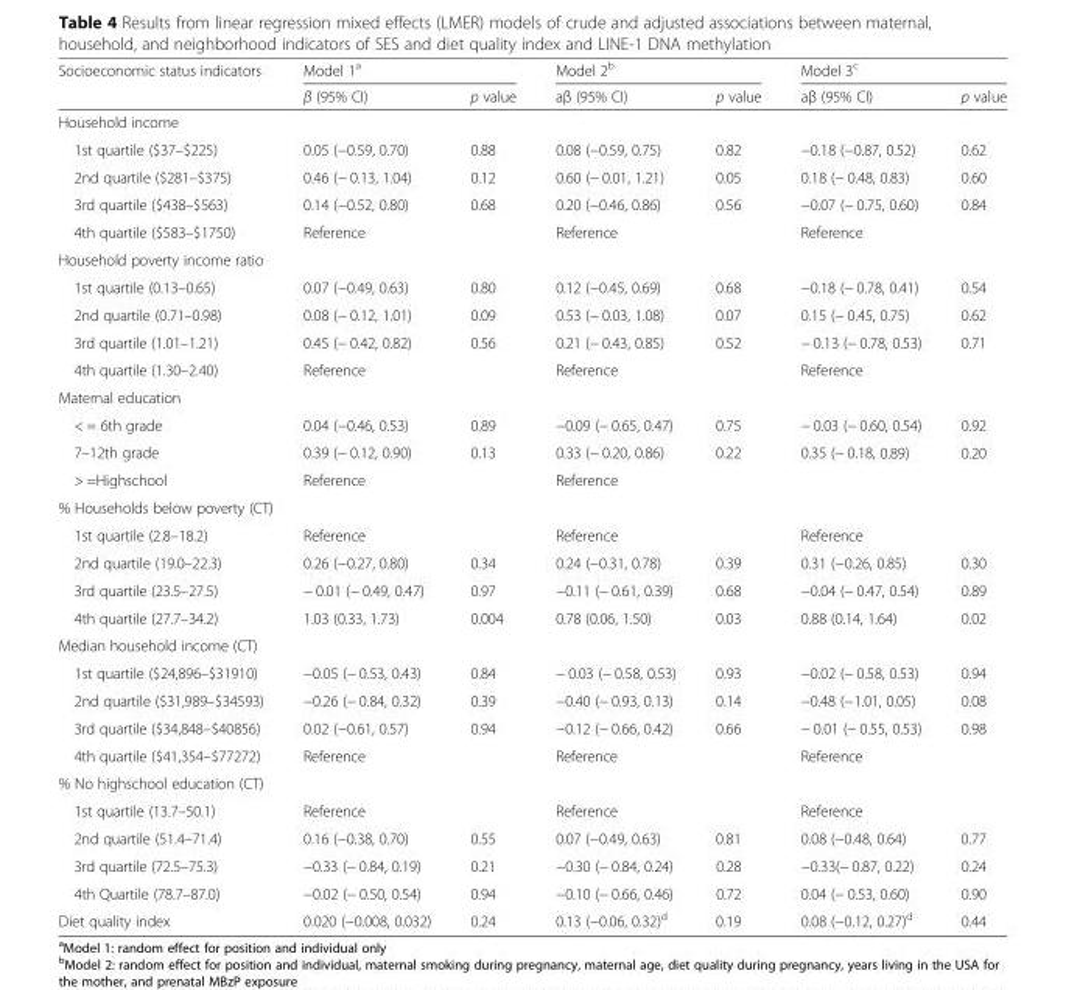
<table><thead><tr><td rowspan="2">Socioeconomic status indicators</td><td colspan="2">Model 1<sup>a</sup></td><td colspan="2">Model 2<sup>b</sup></td><td colspan="2">Model 3<sup>c</sup></td></tr><tr><td>β (95% CI)</td><td>p value</td><td>aβ (95% CI)</td><td>p value</td><td>aβ (95% CI)</td><td>p value</td></tr></thead><tbody><tr><td colspan="7">Household income</td></tr><tr><td>1st quartile ($37–$225)</td><td>0.05 (−0.59, 0.70)</td><td>0.88</td><td>0.08 (−0.59, 0.75)</td><td>0.82</td><td>−0.18 (−0.87, 0.52)</td><td>0.62</td></tr><tr><td>2nd quartile ($281–$375)</td><td>0.46 (− 0.13, 1.04)</td><td>0.12</td><td>0.60 (− 0.01, 1.21)</td><td>0.05</td><td>0.18 (− 0.48, 0.83)</td><td>0.60</td></tr><tr><td>3rd quartile ($438–$563)</td><td>0.14 (−0.52, 0.80)</td><td>0.68</td><td>0.20 (−0.46, 0.86)</td><td>0.56</td><td>−0.07 (− 0.75, 0.60)</td><td>0.84</td></tr><tr><td>4th quartile ($583–$1750)</td><td>Reference</td><td></td><td>Reference</td><td></td><td>Reference</td><td></td></tr><tr><td colspan="7">Household poverty income ratio</td></tr><tr><td>1st quartile (0.13–0.65)</td><td>0.07 (−0.49, 0.63)</td><td>0.80</td><td>0.12 (−0.45, 0.69)</td><td>0.68</td><td>−0.18 (− 0.78, 0.41)</td><td>0.54</td></tr><tr><td>2nd quartile (0.71–0.98)</td><td>0.08 (− 0.12, 1.01)</td><td>0.09</td><td>0.53 (− 0.03, 1.08)</td><td>0.07</td><td>0.15 (− 0.45, 0.75)</td><td>0.62</td></tr><tr><td>3rd quartile (1.01–1.21)</td><td>0.45 (− 0.42, 0.82)</td><td>0.56</td><td>0.21 (− 0.43, 0.85)</td><td>0.52</td><td>− 0.13 (− 0.78, 0.53)</td><td>0.71</td></tr><tr><td>4th quartile (1.30–2.40)</td><td>Reference</td><td></td><td>Reference</td><td></td><td>Reference</td><td></td></tr><tr><td colspan="7">Maternal education</td></tr><tr><td>&lt; = 6th grade</td><td>0.04 (−0.46, 0.53)</td><td>0.89</td><td>−0.09 (− 0.65, 0.47)</td><td>0.75</td><td>− 0.03 (− 0.60, 0.54)</td><td>0.92</td></tr><tr><td>7–12th grade</td><td>0.39 (− 0.12, 0.90)</td><td>0.13</td><td>0.33 (− 0.20, 0.86)</td><td>0.22</td><td>0.35 (− 0.18, 0.89)</td><td>0.20</td></tr><tr><td>&gt; =Highschool</td><td>Reference</td><td></td><td>Reference</td><td></td><td></td><td></td></tr><tr><td colspan="7">% Households below poverty (CT)</td></tr><tr><td>1st quartile (2.8–18.2)</td><td>Reference</td><td></td><td>Reference</td><td></td><td>Reference</td><td></td></tr><tr><td>2nd quartile (19.0–22.3)</td><td>0.26 (−0.27, 0.80)</td><td>0.34</td><td>0.24 (−0.31, 0.78)</td><td>0.39</td><td>0.31 (−0.26, 0.85)</td><td>0.30</td></tr><tr><td>3rd quartile (23.5–27.5)</td><td>− 0.01 (− 0.49, 0.47)</td><td>0.97</td><td>−0.11 (− 0.61, 0.39)</td><td>0.68</td><td>−0.04 (− 0.47, 0.54)</td><td>0.89</td></tr><tr><td>4th quartile (27.7–34.2)</td><td>1.03 (0.33, 1.73)</td><td>0.004</td><td>0.78 (0.06, 1.50)</td><td>0.03</td><td>0.88 (0.14, 1.64)</td><td>0.02</td></tr><tr><td colspan="7">Median household income (CT)</td></tr><tr><td>1st quartile ($24,896–$31910)</td><td>−0.05 (− 0.53, 0.43)</td><td>0.84</td><td>− 0.03 (− 0.58, 0.53)</td><td>0.93</td><td>−0.02 (− 0.58, 0.53)</td><td>0.94</td></tr><tr><td>2nd quartile ($31,989–$34593)</td><td>−0.26 (− 0.84, 0.32)</td><td>0.39</td><td>−0.40 (− 0.93, 0.13)</td><td>0.14</td><td>−0.48 (−1.01, 0.05)</td><td>0.08</td></tr><tr><td>3rd quartile ($34,848–$40856)</td><td>0.02 (−0.61, 0.57)</td><td>0.94</td><td>−0.12 (− 0.66, 0.42)</td><td>0.66</td><td>− 0.01 (− 0.55, 0.53)</td><td>0.98</td></tr><tr><td>4th quartile ($41,354–$77272)</td><td>Reference</td><td></td><td>Reference</td><td></td><td>Reference</td><td></td></tr><tr><td colspan="7">% No highschool education (CT)</td></tr><tr><td>1st quartile (13.7–50.1)</td><td>Reference</td><td></td><td>Reference</td><td></td><td>Reference</td><td></td></tr><tr><td>2nd quartile (51.4–71.4)</td><td>0.16 (−0.38, 0.70)</td><td>0.55</td><td>0.07 (−0.49, 0.63)</td><td>0.81</td><td>0.08 (−0.48, 0.64)</td><td>0.77</td></tr><tr><td>3rd quartile (72.5–75.3)</td><td>−0.33 (− 0.84, 0.19)</td><td>0.21</td><td>−0.30 (− 0.84, 0.24)</td><td>0.28</td><td>−0.33(− 0.87, 0.22)</td><td>0.24</td></tr><tr><td>4th Quartile (78.7–87.0)</td><td>−0.02 (− 0.50, 0.54)</td><td>0.94</td><td>−0.10 (− 0.66, 0.46)</td><td>0.72</td><td>0.04 (− 0.53, 0.60)</td><td>0.90</td></tr><tr><td>Diet quality index</td><td>0.020 (−0.008, 0.032)</td><td>0.24</td><td>0.13 (−0.06, 0.32)<sup>d</sup></td><td>0.19</td><td>0.08 (−0.12, 0.27)<sup>d</sup></td><td>0.44</td></tr></tbody></table>